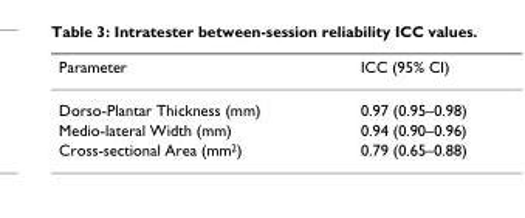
<table><thead><tr><td>Parameter</td><td>ICC (95% CI)</td></tr></thead><tbody><tr><td>Dorso-Plantar Thickness (mm)</td><td>0.97 (0.95–0.98)</td></tr><tr><td>Medio-lateral Width (mm)</td><td>0.94 (0.90–0.96)</td></tr><tr><td>Cross-sectional Area (mm<sup>2</sup>)</td><td>0.79 (0.65–0.88)</td></tr></tbody></table>